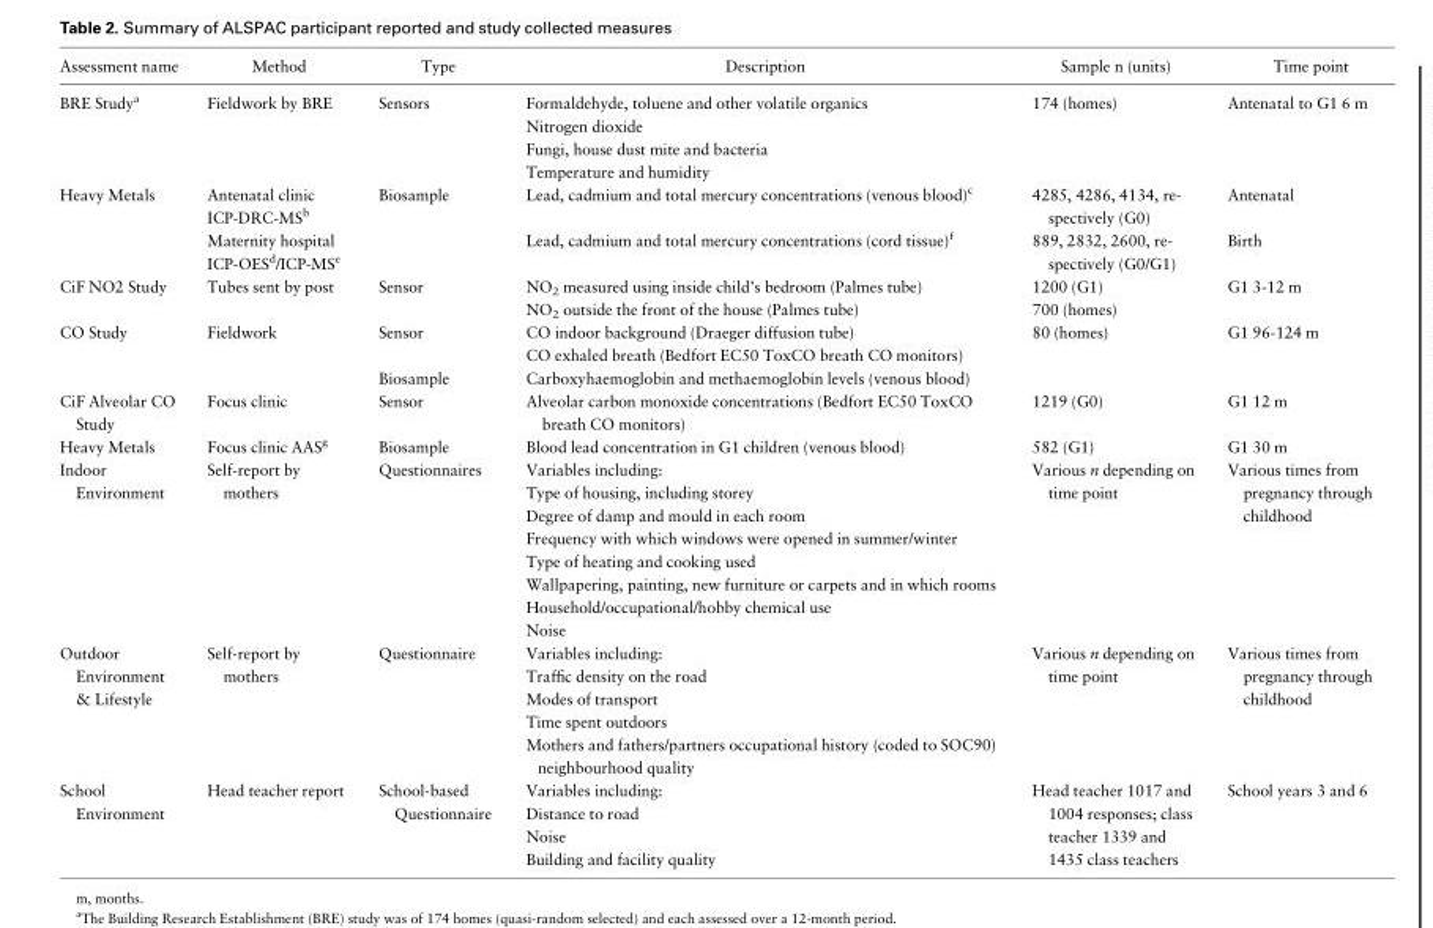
<table><thead><tr><td>Assessment name</td><td>Method</td><td>Type</td><td>Description</td><td>Sample n (units)</td><td>Time point</td></tr></thead><tbody><tr><td>BRE Study<sup>a</sup></td><td>Fieldwork by BRE</td><td>Sensors</td><td>Formaldehyde, toluene and other volatile organics Nitrogen dioxide Fungi, house dust mite and bacteria Temperature and humidity</td><td>174 (homes)</td><td>Antenatal to G1 6 m</td></tr><tr><td rowspan="2">Heavy Metals</td><td>Antenatal clinic ICP-DRC-MS<sup>b</sup></td><td rowspan="2">Biosample</td><td>Lead, cadmium and total mercury concentrations (venous blood)<sup>c</sup></td><td>4285, 4286, 4134, re- spectively (G0)</td><td>Antenatal</td></tr><tr><td>Maternity hospital ICP-OES<sup>d</sup>/ICP-MS<sup>e</sup></td><td>Lead, cadmium and total mercury concentrations (cord tissue)<sup>f</sup></td><td>889, 2832, 2600, re- spectively (G0/G1)</td><td>Birth</td></tr><tr><td rowspan="2">CiF NO2 Study</td><td rowspan="2">Tubes sent by post</td><td rowspan="2">Sensor</td><td>NO<sub>2</sub> measured using inside child’s bedroom (Palmes tube)</td><td>1200 (G1)</td><td rowspan="2">G1 3-12 m</td></tr><tr><td>NO<sub>2</sub> outside the front of the house (Palmes tube)</td><td>700 (homes)</td></tr><tr><td rowspan="2">CO Study</td><td rowspan="2">Fieldwork</td><td>Sensor</td><td>CO indoor background (Draeger diffusion tube) CO exhaled breath (Bedfort EC50 ToxCO breath CO monitors)</td><td rowspan="2">80 (homes)</td><td rowspan="2">G1 96-124 m</td></tr><tr><td>Biosample</td><td>Carboxyhaemoglobin and methaemoglobin levels (venous blood)</td></tr><tr><td>CiF Alveolar CO Study</td><td>Focus clinic</td><td>Sensor</td><td>Alveolar carbon monoxide concentrations (Bedfort EC50 ToxCO breath CO monitors)</td><td>1219 (G0)</td><td>G1 12 m</td></tr><tr><td>Heavy Metals</td><td>Focus clinic AAS<sup>g</sup></td><td>Biosample</td><td>Blood lead concentration in G1 children (venous blood)</td><td>582 (G1)</td><td>G1 30 m</td></tr><tr><td>Indoor Environment</td><td>Self-report by mothers</td><td>Questionnaires</td><td>Variables including: Type of housing, including storey Degree of damp and mould in each room Frequency with which windows were opened in summer/winter Type of heating and cooking used Wallpapering, painting, new furniture or carpets and in which rooms Household/occupational/hobby chemical use Noise</td><td>Various n depending on time point</td><td>Various times from pregnancy through childhood</td></tr><tr><td>Outdoor Environment &amp; Lifestyle</td><td>Self-report by mothers</td><td>Questionnaire</td><td>Variables including: Traffic density on the road Modes of transport Time spent outdoors Mothers and fathers/partners occupational history (coded to SOC90) neighbourhood quality</td><td>Various n depending on time point</td><td>Various times from pregnancy through childhood</td></tr><tr><td>School Environment</td><td>Head teacher report</td><td>School-based Questionnaire</td><td>Variables including: Distance to road Noise Building and facility quality</td><td>Head teacher 1017 and 1004 responses; class teacher 1339 and 1435 class teachers</td><td>School years 3 and 6</td></tr></tbody></table>